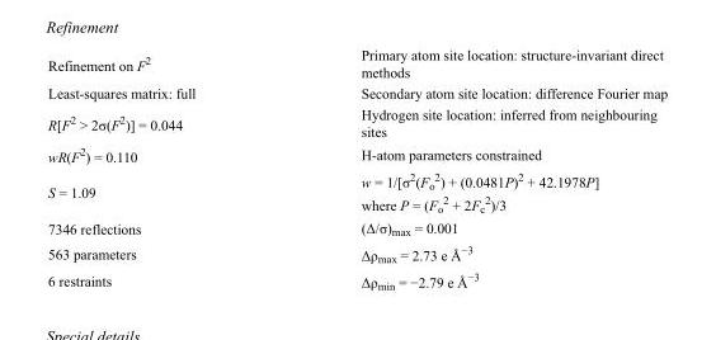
<table><tbody><tr><td>Refinement on F<sup>2</sup></td><td>Primary atom site location: structure-invariant direct methods</td></tr><tr><td>Least-squares matrix: full</td><td>Secondary atom site location: difference Fourier map</td></tr><tr><td>R[F<sup>2</sup> &gt; 2σ(F<sup>2</sup>)] = 0.044</td><td>Hydrogen site location: inferred from neighbouring sites</td></tr><tr><td>wR(F<sup>2</sup>) = 0.110</td><td>H-atom parameters constrained</td></tr><tr><td>S = 1.09</td><td>w = 1/[σ<sup>2</sup>(F<sub>o</sub> <sup>2</sup>) + (0.0481P)<sup>2</sup> + 42.1978P] where P = (F<sub>o</sub> <sup>2</sup> + 2F<sub>c</sub> <sup>2</sup>)/3</td></tr><tr><td>7346 reflections</td><td>(Δ/σ)<sub>max</sub> = 0.001</td></tr><tr><td>563 parameters</td><td>Δρ<sub>max</sub> = 2.73 e Å<sup>−3</sup></td></tr><tr><td>6 restraints</td><td>Δρ<sub>min</sub> = −2.79 e Å<sup>−3</sup></td></tr></tbody></table>